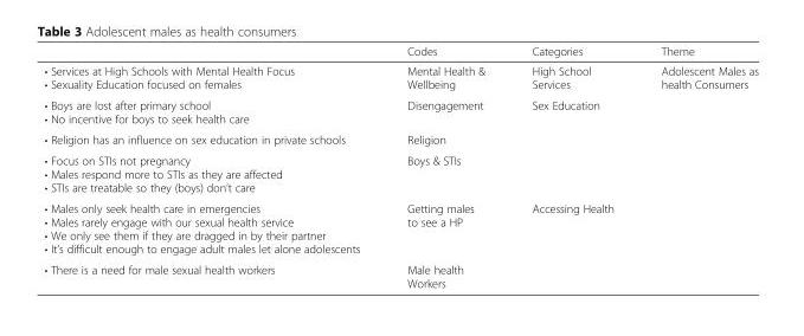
<table><thead><tr><td></td><td>Codes</td><td>Categories</td><td>Theme</td></tr></thead><tbody><tr><td>• Services at High Schools with Mental Health Focus • Sexuality Education focused on females</td><td>Mental Health &amp; Wellbeing</td><td>High School Services</td><td rowspan="6">Adolescent Males as health Consumers</td></tr><tr><td>• Boys are lost after primary school • No incentive for boys to seek health care</td><td>Disengagement</td><td rowspan="3">Sex Education</td></tr><tr><td>• Religion has an influence on sex education in private schools</td><td>Religion</td></tr><tr><td>• Focus on STIs not pregnancy • Males respond more to STIs as they are affected • STIs are treatable so they (boys) don’t care</td><td>Boys &amp; STIs</td></tr><tr><td>• Males only seek health care in emergencies • Males rarely engage with our sexual health service • We only see them if they are dragged in by their partner • It’s difficult enough to engage adult males let alone adolescents</td><td>Getting males to see a HP</td><td rowspan="2">Accessing Health</td></tr><tr><td>• There is a need for male sexual health workers</td><td>Male health Workers</td></tr></tbody></table>